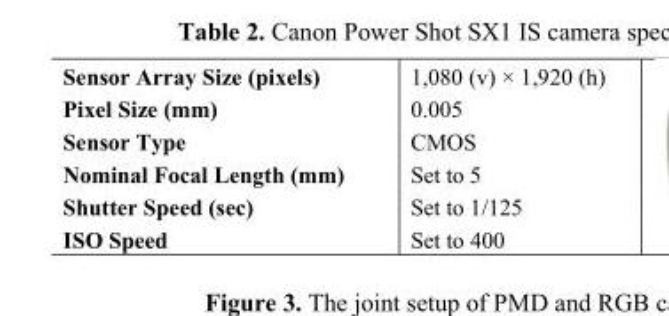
<table><tbody><tr><td>Sensor Array Size (pixels)</td><td>1,080 (v) × 1,920 (h)</td></tr><tr><td>Pixel Size (mm)</td><td>0.005</td></tr><tr><td>Sensor Type</td><td>CMOS</td></tr><tr><td>Nominal Focal Length (mm)</td><td>Set to 5</td></tr><tr><td>Shutter Speed (sec)</td><td>Set to 1/125</td></tr><tr><td>ISO Speed</td><td>Set to 400</td></tr></tbody></table>